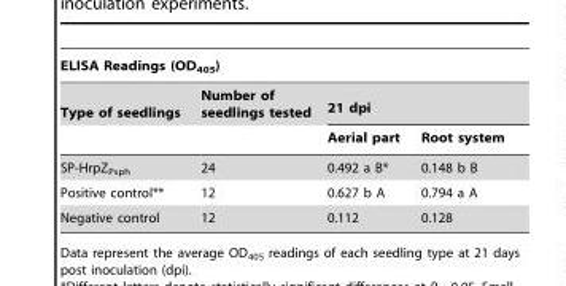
<table><thead><tr><td colspan="4">ELISA Readings (OD<sub>405</sub>)</td></tr><tr><td rowspan="2">Type of seedlings</td><td rowspan="2">Number of seedlings tested</td><td colspan="2">21 dpi</td></tr><tr><td>Aerial part</td><td>Root system</td></tr></thead><tbody><tr><td>SP-HrpZ<sub>Psph</sub></td><td>24</td><td>0.492 a B*</td><td>0.148 b B</td></tr><tr><td>Positive control**</td><td>12</td><td>0.627 b A</td><td>0.794 a A</td></tr><tr><td>Negative control</td><td>12</td><td>0.112</td><td>0.128</td></tr></tbody></table>